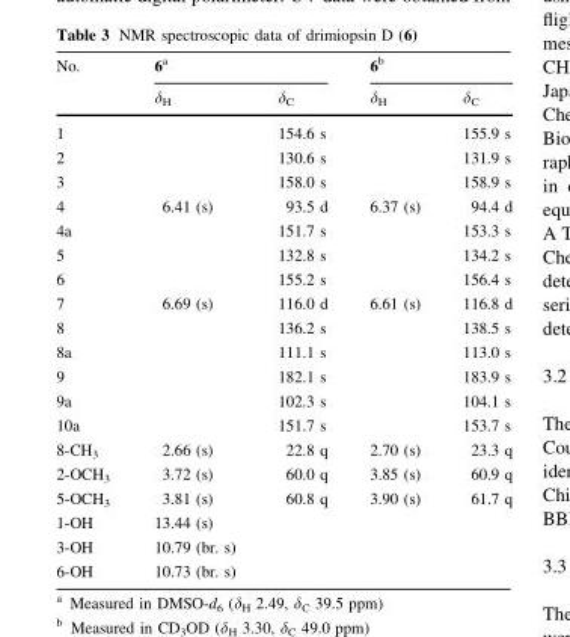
<table><thead><tr><td rowspan="2">No.</td><td colspan="2">6<sup>a</sup></td><td colspan="2">6<sup>b</sup></td></tr><tr><td>δ<sub>H</sub></td><td>δ<sub>C</sub></td><td>δ<sub>H</sub></td><td>δ<sub>C</sub></td></tr></thead><tbody><tr><td>1</td><td></td><td>154.6 s</td><td></td><td>155.9 s</td></tr><tr><td>2</td><td></td><td>130.6 s</td><td></td><td>131.9 s</td></tr><tr><td>3</td><td></td><td>158.0 s</td><td></td><td>158.9 s</td></tr><tr><td>4</td><td>6.41 (s)</td><td>93.5 d</td><td>6.37 (s)</td><td>94.4 d</td></tr><tr><td>4a</td><td></td><td>151.7 s</td><td></td><td>153.3 s</td></tr><tr><td>5</td><td></td><td>132.8 s</td><td></td><td>134.2 s</td></tr><tr><td>6</td><td></td><td>155.2 s</td><td></td><td>156.4 s</td></tr><tr><td>7</td><td>6.69 (s)</td><td>116.0 d</td><td>6.61 (s)</td><td>116.8 d</td></tr><tr><td>8</td><td></td><td>136.2 s</td><td></td><td>138.5 s</td></tr><tr><td>8a</td><td></td><td>111.1 s</td><td></td><td>113.0 s</td></tr><tr><td>9</td><td></td><td>182.1 s</td><td></td><td>183.9 s</td></tr><tr><td>9a</td><td></td><td>102.3 s</td><td></td><td>104.1 s</td></tr><tr><td>10a</td><td></td><td>151.7 s</td><td></td><td>153.7 s</td></tr><tr><td>8-CH<sub>3</sub></td><td>2.66 (s)</td><td>22.8 q</td><td>2.70 (s)</td><td>23.3 q</td></tr><tr><td>2-OCH<sub>3</sub></td><td>3.72 (s)</td><td>60.0 q</td><td>3.85 (s)</td><td>60.9 q</td></tr><tr><td>5-OCH<sub>3</sub></td><td>3.81 (s)</td><td>60.8 q</td><td>3.90 (s)</td><td>61.7 q</td></tr><tr><td>1-OH</td><td>13.44 (s)</td><td></td><td></td><td></td></tr><tr><td>3-OH</td><td>10.79 (br. s)</td><td></td><td></td><td></td></tr><tr><td>6-OH</td><td>10.73 (br. s)</td><td></td><td></td><td></td></tr></tbody></table>